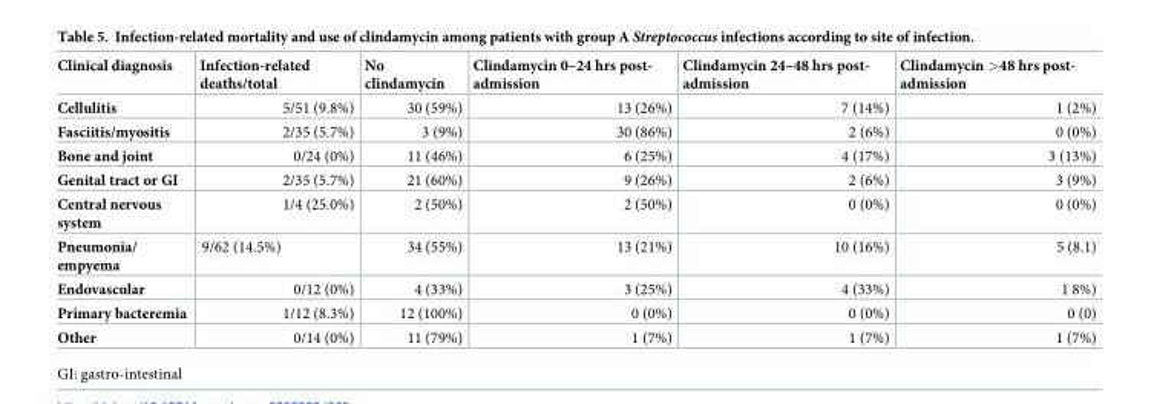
<table><thead><tr><td>Clinical diagnosis</td><td>Infection-related deaths/total</td><td>No clindamycin</td><td>Clindamycin 0–24 hrs post- admission</td><td>Clindamycin 24–48 hrs post- admission</td><td>Clindamycin &gt;48 hrs post- admission</td></tr></thead><tbody><tr><td>Cellulitis</td><td>5/51 (9.8%)</td><td>30 (59%)</td><td>13 (26%)</td><td>7 (14%)</td><td>1 (2%)</td></tr><tr><td>Fasciitis/myositis</td><td>2/35 (5.7%)</td><td>3 (9%)</td><td>30 (86%)</td><td>2 (6%)</td><td>0 (0%)</td></tr><tr><td>Bone and joint</td><td>0/24 (0%)</td><td>11 (46%)</td><td>6 (25%)</td><td>4 (17%)</td><td>3 (13%)</td></tr><tr><td>Genital tract or GI</td><td>2/35 (5.7%)</td><td>21 (60%)</td><td>9 (26%)</td><td>2 (6%)</td><td>3 (9%)</td></tr><tr><td>Central nervous system</td><td>1/4 (25.0%)</td><td>2 (50%)</td><td>2 (50%)</td><td>0 (0%)</td><td>0 (0%)</td></tr><tr><td>Pneumonia/ empyema</td><td>9/62 (14.5%)</td><td>34 (55%)</td><td>13 (21%)</td><td>10 (16%)</td><td>5 (8.1)</td></tr><tr><td>Endovascular</td><td>0/12 (0%)</td><td>4 (33%)</td><td>3 (25%)</td><td>4 (33%)</td><td>1 8%)</td></tr><tr><td>Primary bacteremia</td><td>1/12 (8.3%)</td><td>12 (100%)</td><td>0 (0%)</td><td>0 (0%)</td><td>0 (0)</td></tr><tr><td>Other</td><td>0/14 (0%)</td><td>11 (79%)</td><td>1 (7%)</td><td>1 (7%)</td><td>1 (7%)</td></tr></tbody></table>